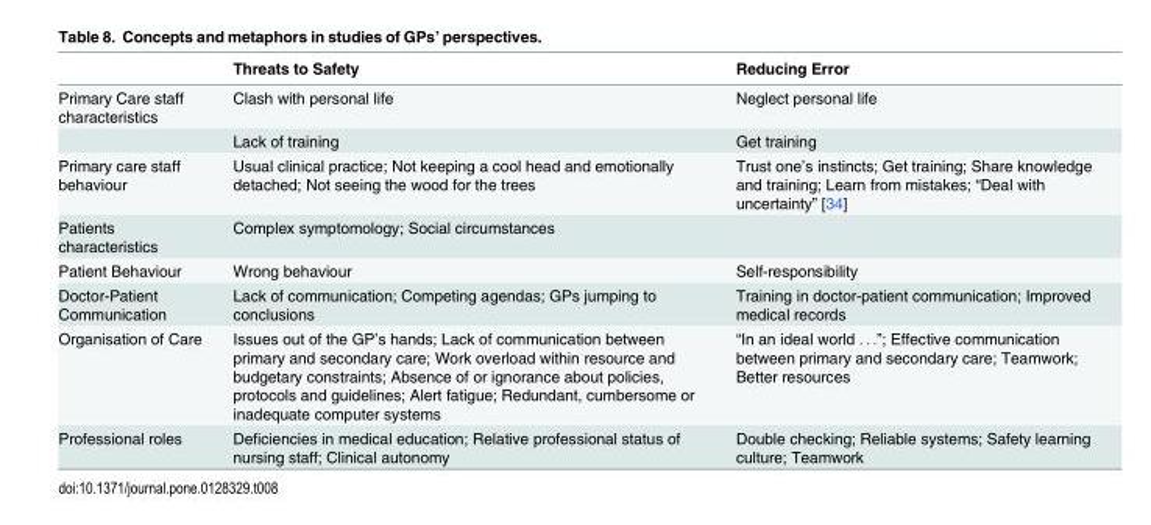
<table><thead><tr><td></td><td>Threats to Safety</td><td>Reducing Error</td></tr></thead><tbody><tr><td rowspan="2">Primary Care staff characteristics</td><td>Clash with personal life</td><td>Neglect personal life</td></tr><tr><td>Lack of training</td><td>Get training</td></tr><tr><td>Primary care staff behaviour</td><td>Usual clinical practice; Not keeping a cool head and emotionally detached; Not seeing the wood for the trees</td><td>Trust one’s instincts; Get training; Share knowledge and training; Learn from mistakes; “Deal with uncertainty” [34]</td></tr><tr><td>Patients characteristics</td><td>Complex symptomology; Social circumstances</td><td></td></tr><tr><td>Patient Behaviour</td><td>Wrong behaviour</td><td>Self-responsibility</td></tr><tr><td>Doctor-Patient Communication</td><td>Lack of communication; Competing agendas; GPs jumping to conclusions</td><td>Training in doctor-patient communication; Improved medical records</td></tr><tr><td>Organisation of Care</td><td>Issues out of the GP’s hands; Lack of communication between primary and secondary care; Work overload within resource and budgetary constraints; Absence of or ignorance about policies, protocols and guidelines; Alert fatigue; Redundant, cumbersome or inadequate computer systems</td><td>“In an ideal world . . .”; Effective communication between primary and secondary care; Teamwork; Better resources</td></tr><tr><td>Professional roles</td><td>Deficiencies in medical education; Relative professional status of nursing staff; Clinical autonomy</td><td>Double checking; Reliable systems; Safety learning culture; Teamwork</td></tr></tbody></table>